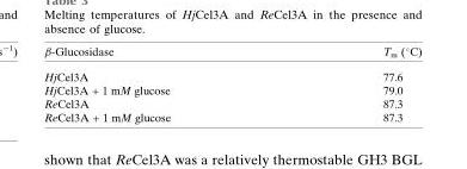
<table><thead><tr><td>β-Glucosidase</td><td>T<sub>m</sub> (°C)</td></tr></thead><tbody><tr><td>HjCel3A</td><td>77.6</td></tr><tr><td>HjCel3A + 1 mM glucose</td><td>79.0</td></tr><tr><td>ReCel3A</td><td>87.3</td></tr><tr><td>ReCel3A + 1 mM glucose</td><td>87.3</td></tr></tbody></table>